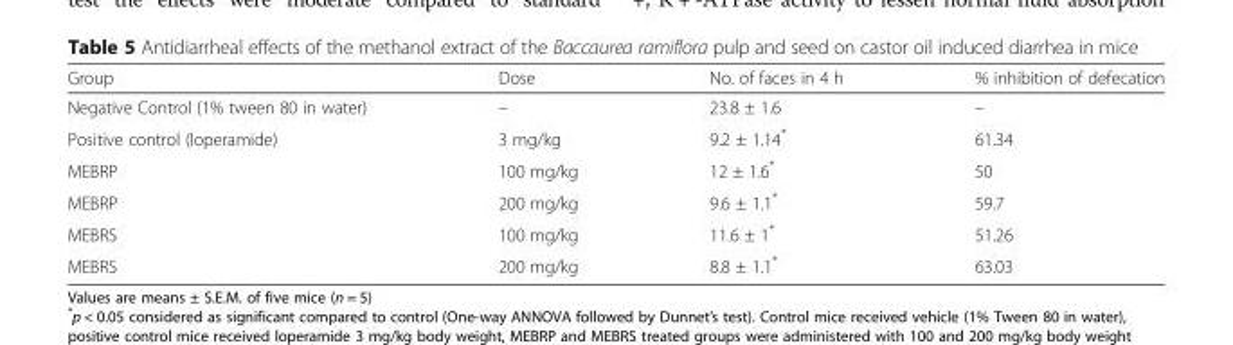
<table><thead><tr><td>Group</td><td>Dose</td><td>No. of faces in 4 h</td><td>% inhibition of defecation</td></tr></thead><tbody><tr><td>Negative Control (1% tween 80 in water)</td><td>–</td><td>23.8 ± 1.6</td><td>–</td></tr><tr><td>Positive control (loperamide)</td><td>3 mg/kg</td><td>9.2 ± 1.14*</td><td>61.34</td></tr><tr><td>MEBRP</td><td>100 mg/kg</td><td>12 ± 1.6*</td><td>50</td></tr><tr><td>MEBRP</td><td>200 mg/kg</td><td>9.6 ± 1.1*</td><td>59.7</td></tr><tr><td>MEBRS</td><td>100 mg/kg</td><td>11.6 ± 1*</td><td>51.26</td></tr><tr><td>MEBRS</td><td>200 mg/kg</td><td>8.8 ± 1.1*</td><td>63.03</td></tr></tbody></table>